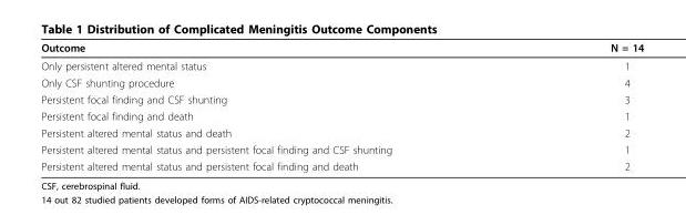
<table><thead><tr><td>Outcome</td><td>N = 14</td></tr></thead><tbody><tr><td>Only persistent altered mental status</td><td>1</td></tr><tr><td>Only CSF shunting procedure</td><td>4</td></tr><tr><td>Persistent focal finding and CSF shunting</td><td>3</td></tr><tr><td>Persistent focal finding and death</td><td>1</td></tr><tr><td>Persistent altered mental status and death</td><td>2</td></tr><tr><td>Persistent altered mental status and persistent focal finding and CSF shunting</td><td>1</td></tr><tr><td>Persistent altered mental status and persistent focal finding and death</td><td>2</td></tr></tbody></table>